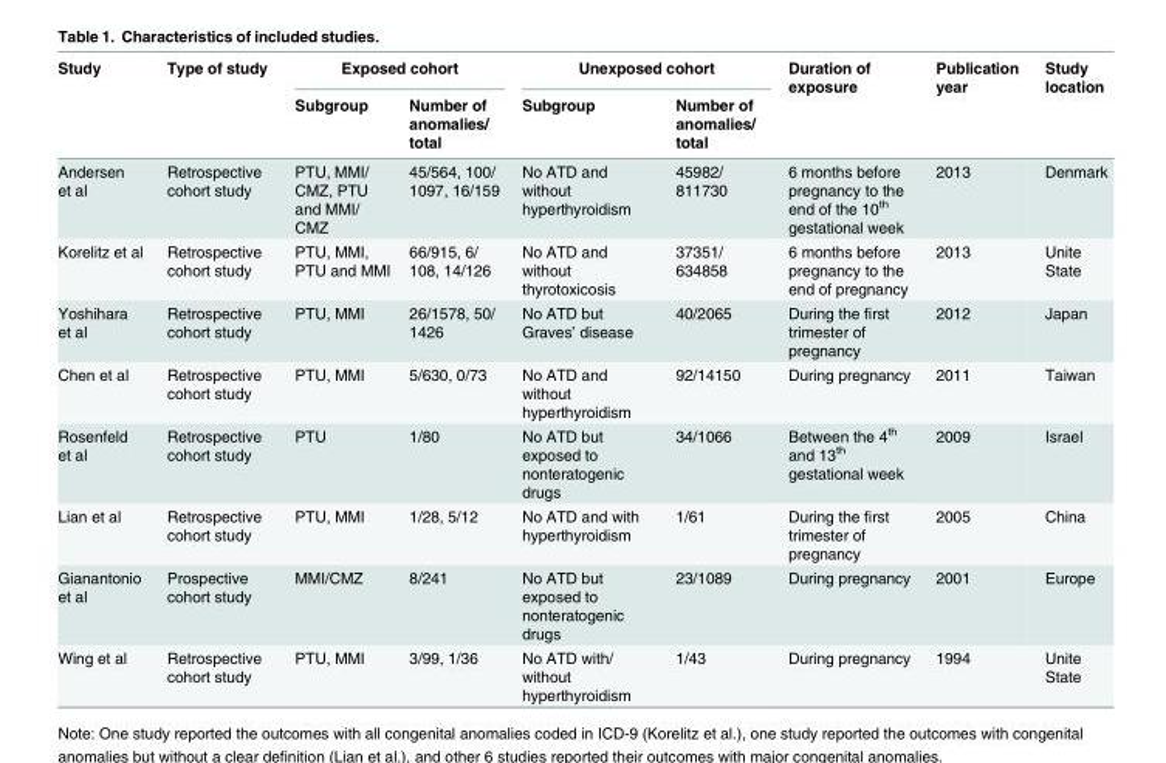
<table><thead><tr><td rowspan="2">Study</td><td rowspan="2">Type of study</td><td colspan="2">Exposed cohort</td><td colspan="2">Unexposed cohort</td><td rowspan="2">Duration of exposure</td><td rowspan="2">Publication year</td><td rowspan="2">Study location</td></tr><tr><td>Subgroup</td><td>Number of anomalies/ total</td><td>Subgroup</td><td>Number of anomalies/ total</td></tr></thead><tbody><tr><td>Andersen et al</td><td>Retrospective cohort study</td><td>PTU, MMI/ CMZ, PTU and MMI/ CMZ</td><td>45/564, 100/ 1097, 16/159</td><td>No ATD and without hyperthyroidism</td><td>45982/ 811730</td><td>6 months before pregnancy to the end of the 10<sup>th</sup> gestational week</td><td>2013</td><td>Denmark</td></tr><tr><td>Korelitz et al</td><td>Retrospective cohort study</td><td>PTU, MMI, PTU and MMI</td><td>66/915, 6/ 108, 14/126</td><td>No ATD and without thyrotoxicosis</td><td>37351/ 634858</td><td>6 months before pregnancy to the end of pregnancy</td><td>2013</td><td>Unite State</td></tr><tr><td>Yoshihara et al</td><td>Retrospective cohort study</td><td>PTU, MMI</td><td>26/1578, 50/ 1426</td><td>No ATD but Graves’ disease</td><td>40/2065</td><td>During the first trimester of pregnancy</td><td>2012</td><td>Japan</td></tr><tr><td>Chen et al</td><td>Retrospective cohort study</td><td>PTU, MMI</td><td>5/630, 0/73</td><td>No ATD and without hyperthyroidism</td><td>92/14150</td><td>During pregnancy</td><td>2011</td><td>Taiwan</td></tr><tr><td>Rosenfeld et al</td><td>Retrospective cohort study</td><td>PTU</td><td>1/80</td><td>No ATD but exposed to nonteratogenic drugs</td><td>34/1066</td><td>Between the 4<sup>th</sup> and 13<sup>th</sup> gestational week</td><td>2009</td><td>Israel</td></tr><tr><td>Lian et al</td><td>Retrospective cohort study</td><td>PTU, MMI</td><td>1/28, 5/12</td><td>No ATD and with hyperthyroidism</td><td>1/61</td><td>During the first trimester of pregnancy</td><td>2005</td><td>China</td></tr><tr><td>Gianantonio et al</td><td>Prospective cohort study</td><td>MMI/CMZ</td><td>8/241</td><td>No ATD but exposed to nonteratogenic drugs</td><td>23/1089</td><td>During pregnancy</td><td>2001</td><td>Europe</td></tr><tr><td>Wing et al</td><td>Retrospective cohort study</td><td>PTU, MMI</td><td>3/99, 1/36</td><td>No ATD with/ without hyperthyroidism</td><td>1/43</td><td>During pregnancy</td><td>1994</td><td>Unite State</td></tr></tbody></table>